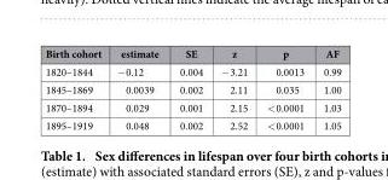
<table><thead><tr><td>Birth cohort</td><td>estimate</td><td>SE</td><td>z</td><td>p</td><td>AF</td></tr></thead><tbody><tr><td>1820–1844</td><td>− 0.12</td><td>0.004</td><td>− 3.21</td><td>0.0013</td><td>0.99</td></tr><tr><td>1845–1869</td><td>0.0039</td><td>0.002</td><td>2.11</td><td>0.035</td><td>1.00</td></tr><tr><td>1870–1894</td><td>0.029</td><td>0.001</td><td>2.15</td><td>&lt; 0.0001</td><td>1.03</td></tr><tr><td>1895–1919</td><td>0.048</td><td>0.002</td><td>2.52</td><td>&lt; 0.0001</td><td>1.05</td></tr></tbody></table>